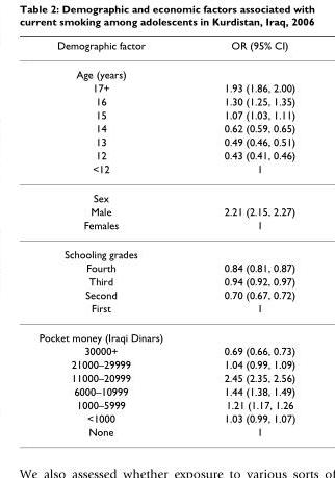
<table><thead><tr><td>Demographic factor</td><td>OR (95% CI)</td></tr></thead><tbody><tr><td colspan="2">Age (years)</td></tr><tr><td>17+</td><td>1.93 (1.86, 2.00)</td></tr><tr><td>16</td><td>1.30 (1.25, 1.35)</td></tr><tr><td>15</td><td>1.07 (1.03, 1.11)</td></tr><tr><td>14</td><td>0.62 (0.59, 0.65)</td></tr><tr><td>13</td><td>0.49 (0.46, 0.51)</td></tr><tr><td>12</td><td>0.43 (0.41, 0.46)</td></tr><tr><td>&lt;12</td><td>1</td></tr><tr><td colspan="2">Sex</td></tr><tr><td>Male</td><td>2.21 (2.15, 2.27)</td></tr><tr><td>Females</td><td>1</td></tr><tr><td colspan="2">Schooling grades</td></tr><tr><td>Fourth</td><td>0.84 (0.81, 0.87)</td></tr><tr><td>Third</td><td>0.94 (0.92, 0.97)</td></tr><tr><td>Second</td><td>0.70 (0.67, 0.72)</td></tr><tr><td>First</td><td>1</td></tr><tr><td colspan="2">Pocket money (Iraqi Dinars)</td></tr><tr><td>30000+</td><td>0.69 (0.66, 0.73)</td></tr><tr><td>21000–29999</td><td>1.04 (0.99, 1.09)</td></tr><tr><td>11000–20999</td><td>2.45 (2.35, 2.56)</td></tr><tr><td>6000–10999</td><td>1.44 (1.38, 1.49)</td></tr><tr><td>1000–5999</td><td>1.21 (1.17, 1.26</td></tr><tr><td>&lt;1000</td><td>1.03 (0.99, 1.07)</td></tr><tr><td>None</td><td>1</td></tr></tbody></table>